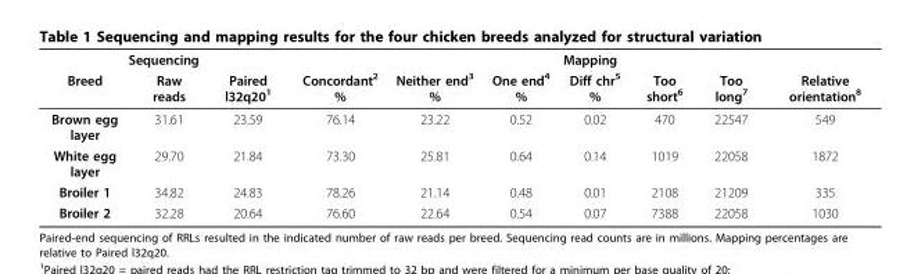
<table><thead><tr><td colspan="3">Sequencing</td><td colspan="7">Mapping</td></tr><tr><td>Breed</td><td>Raw reads</td><td>Paired l32q20<sup>1</sup></td><td>Concordant<sup>2</sup> %</td><td>Neither end<sup>3</sup> %</td><td>One end<sup>4</sup> %</td><td>Diff chr<sup>5</sup> %</td><td>Too short<sup>6</sup></td><td>Too long<sup>7</sup></td><td>Relative orientation<sup>8</sup></td></tr></thead><tbody><tr><td>Brown egg layer</td><td>31.61</td><td>23.59</td><td>76.14</td><td>23.22</td><td>0.52</td><td>0.02</td><td>470</td><td>22547</td><td>549</td></tr><tr><td>White egg layer</td><td>29.70</td><td>21.84</td><td>73.30</td><td>25.81</td><td>0.64</td><td>0.14</td><td>1019</td><td>22058</td><td>1872</td></tr><tr><td>Broiler 1</td><td>34.82</td><td>24.83</td><td>78.26</td><td>21.14</td><td>0.48</td><td>0.01</td><td>2108</td><td>21209</td><td>335</td></tr><tr><td>Broiler 2</td><td>32.28</td><td>20.64</td><td>76.60</td><td>22.64</td><td>0.54</td><td>0.07</td><td>7388</td><td>22058</td><td>1030</td></tr></tbody></table>